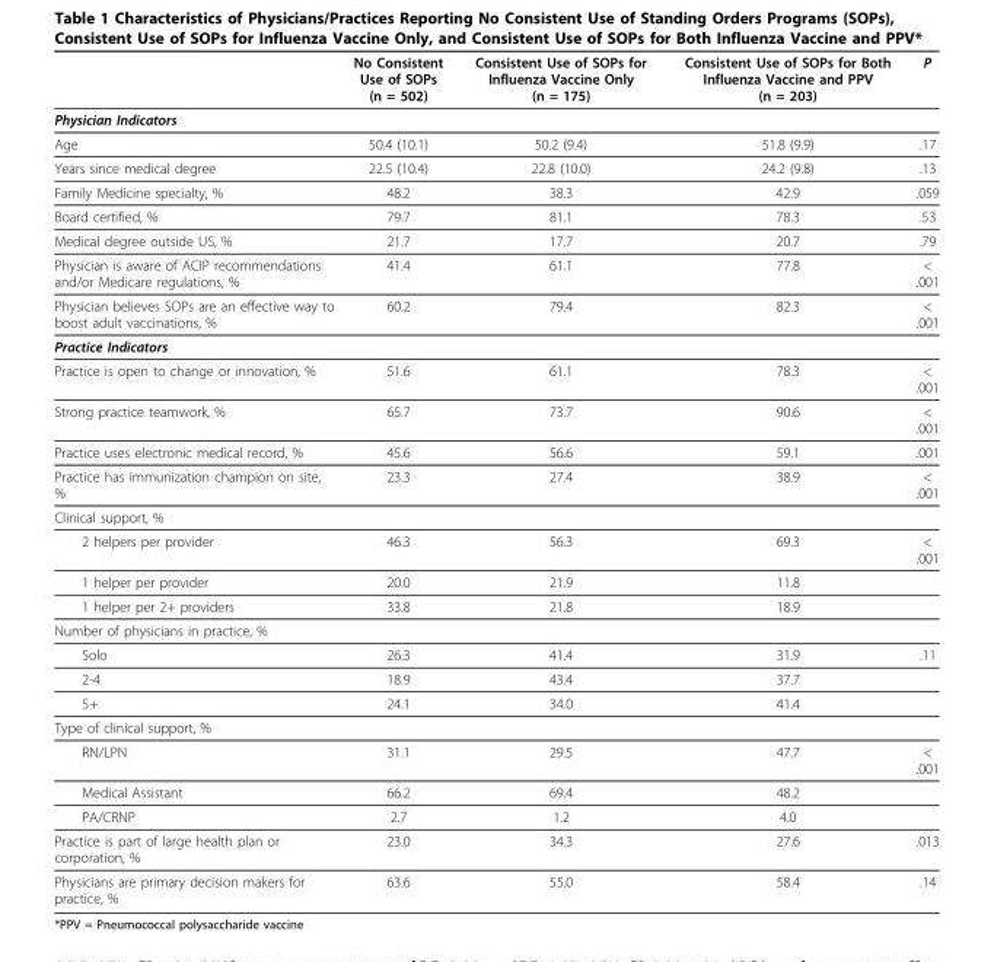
<table><thead><tr><td></td><td>No Consistent Use of SOPs (n = 502)</td><td>Consistent Use of SOPs for Influenza Vaccine Only (n = 175)</td><td>Consistent Use of SOPs for Both Influenza Vaccine and PPV (n = 203)</td><td>P</td></tr></thead><tbody><tr><td colspan="5">Physician Indicators</td></tr><tr><td>Age</td><td>50.4 (10.1)</td><td>50.2 (9.4)</td><td>51.8 (9.9)</td><td>.17</td></tr><tr><td>Years since medical degree</td><td>22.5 (10.4)</td><td>22.8 (10.0)</td><td>24.2 (9.8)</td><td>.13</td></tr><tr><td>Family Medicine specialty, %</td><td>48.2</td><td>38.3</td><td>42.9</td><td>.059</td></tr><tr><td>Board certified, %</td><td>79.7</td><td>81.1</td><td>78.3</td><td>.53</td></tr><tr><td>Medical degree outside US, %</td><td>21.7</td><td>17.7</td><td>20.7</td><td>.79</td></tr><tr><td>Physician is aware of ACIP recommendations and/or Medicare regulations, %</td><td>41.4</td><td>61.1</td><td>77.8</td><td>&lt; .001</td></tr><tr><td>Physician believes SOPs are an effective way to boost adult vaccinations, %</td><td>60.2</td><td>79.4</td><td>82.3</td><td>&lt; .001</td></tr><tr><td colspan="5">Practice Indicators</td></tr><tr><td>Practice is open to change or innovation, %</td><td>51.6</td><td>61.1</td><td>78.3</td><td>&lt; .001</td></tr><tr><td>Strong practice teamwork, %</td><td>65.7</td><td>73.7</td><td>90.6</td><td>&lt; .001</td></tr><tr><td>Practice uses electronic medical record, %</td><td>45.6</td><td>56.6</td><td>59.1</td><td>.001</td></tr><tr><td>Practice has immunization champion on site, %</td><td>23.3</td><td>27.4</td><td>38.9</td><td>&lt; .001</td></tr><tr><td colspan="5">Clinical support, %</td></tr><tr><td>2 helpers per provider</td><td>46.3</td><td>56.3</td><td>69.3</td><td>&lt; .001</td></tr><tr><td>1 helper per provider</td><td>20.0</td><td>21.9</td><td>11.8</td><td></td></tr><tr><td>1 helper per 2+ providers</td><td>33.8</td><td>21.8</td><td>18.9</td><td></td></tr><tr><td colspan="5">Number of physicians in practice, %</td></tr><tr><td>Solo</td><td>26.3</td><td>41.4</td><td>31.9</td><td>.11</td></tr><tr><td>2-4</td><td>18.9</td><td>43.4</td><td>37.7</td><td></td></tr><tr><td>5+</td><td>24.1</td><td>34.0</td><td>41.4</td><td></td></tr><tr><td colspan="5">Type of clinical support, %</td></tr><tr><td>RN/LPN</td><td>31.1</td><td>29.5</td><td>47.7</td><td>&lt; .001</td></tr><tr><td>Medical Assistant</td><td>66.2</td><td>69.4</td><td>48.2</td><td></td></tr><tr><td>PA/CRNP</td><td>2.7</td><td>1.2</td><td>4.0</td><td></td></tr><tr><td>Practice is part of large health plan or corporation, %</td><td>23.0</td><td>34.3</td><td>27.6</td><td>.013</td></tr><tr><td>Physicians are primary decision makers for practice, %</td><td>63.6</td><td>55.0</td><td>58.4</td><td>.14</td></tr></tbody></table>